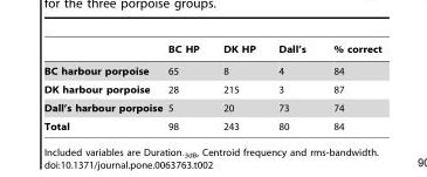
<table><thead><tr><td></td><td>BC HP</td><td>DK HP</td><td>Dall’s</td><td>% correct</td></tr></thead><tbody><tr><td>BC harbour porpoise</td><td>65</td><td>8</td><td>4</td><td>84</td></tr><tr><td>DK harbour porpoise</td><td>28</td><td>215</td><td>3</td><td>87</td></tr><tr><td>Dall’s harbour porpoise</td><td>5</td><td>20</td><td>73</td><td>74</td></tr><tr><td>Total</td><td>98</td><td>243</td><td>80</td><td>84</td></tr></tbody></table>